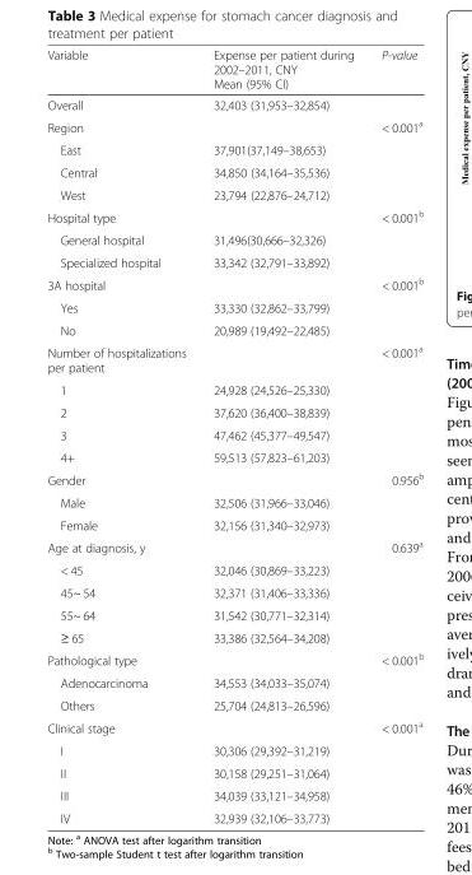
<table><thead><tr><td>Variable</td><td>Expense per patient during 2002–2011, CNY Mean (95% CI)</td><td>P-value</td></tr></thead><tbody><tr><td>Overall</td><td>32,403 (31,953–32,854)</td><td></td></tr><tr><td>Region</td><td></td><td>&lt; 0.001<sup>a</sup></td></tr><tr><td>East</td><td>37,901(37,149–38,653)</td><td></td></tr><tr><td>Central</td><td>34,850 (34,164–35,536)</td><td></td></tr><tr><td>West</td><td>23,794 (22,876–24,712)</td><td></td></tr><tr><td>Hospital type</td><td></td><td>&lt; 0.001<sup>b</sup></td></tr><tr><td>General hospital</td><td>31,496(30,666–32,326)</td><td></td></tr><tr><td>Specialized hospital</td><td>33,342 (32,791–33,892)</td><td></td></tr><tr><td>3A hospital</td><td></td><td>&lt; 0.001<sup>b</sup></td></tr><tr><td>Yes</td><td>33,330 (32,862–33,799)</td><td></td></tr><tr><td>No</td><td>20,989 (19,492–22,485)</td><td></td></tr><tr><td>Number of hospitalizations per patient</td><td></td><td>&lt; 0.001<sup>a</sup></td></tr><tr><td>1</td><td>24,928 (24,526–25,330)</td><td></td></tr><tr><td>2</td><td>37,620 (36,400–38,839)</td><td></td></tr><tr><td>3</td><td>47,462 (45,377–49,547)</td><td></td></tr><tr><td>4+</td><td>59,513 (57,823–61,203)</td><td></td></tr><tr><td>Gender</td><td></td><td>0.956<sup>b</sup></td></tr><tr><td>Male</td><td>32,506 (31,966–33,046)</td><td></td></tr><tr><td>Female</td><td>32,156 (31,340–32,973)</td><td></td></tr><tr><td>Age at diagnosis, y</td><td></td><td>0.639<sup>a</sup></td></tr><tr><td>&lt; 45</td><td>32,046 (30,869–33,223)</td><td></td></tr><tr><td>45~ 54</td><td>32,371 (31,406–33,336)</td><td></td></tr><tr><td>55~ 64</td><td>31,542 (30,771–32,314)</td><td></td></tr><tr><td>≥ 65</td><td>33,386 (32,564–34,208)</td><td></td></tr><tr><td>Pathological type</td><td></td><td>&lt; 0.001<sup>b</sup></td></tr><tr><td>Adenocarcinoma</td><td>34,553 (34,033–35,074)</td><td></td></tr><tr><td>Others</td><td>25,704 (24,813–26,596)</td><td></td></tr><tr><td>Clinical stage</td><td></td><td>&lt; 0.001<sup>a</sup></td></tr><tr><td>I</td><td>30,306 (29,392–31,219)</td><td></td></tr><tr><td>II</td><td>30,158 (29,251–31,064)</td><td></td></tr><tr><td>III</td><td>34,039 (33,121–34,958)</td><td></td></tr><tr><td>IV</td><td>32,939 (32,106–33,773)</td><td></td></tr></tbody></table>